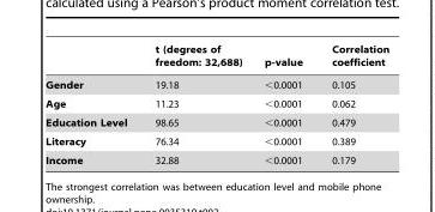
<table><thead><tr><td></td><td>t (degrees of freedom: 32,688)</td><td>p-value</td><td>Correlation coefficient</td></tr></thead><tbody><tr><td>Gender</td><td>19.18</td><td>&lt;0.0001</td><td>0.105</td></tr><tr><td>Age</td><td>11.23</td><td>&lt;0.0001</td><td>0.062</td></tr><tr><td>Education Level</td><td>98.65</td><td>&lt;0.0001</td><td>0.479</td></tr><tr><td>Literacy</td><td>76.34</td><td>&lt;0.0001</td><td>0.389</td></tr><tr><td>Income</td><td>32.88</td><td>&lt;0.0001</td><td>0.179</td></tr></tbody></table>